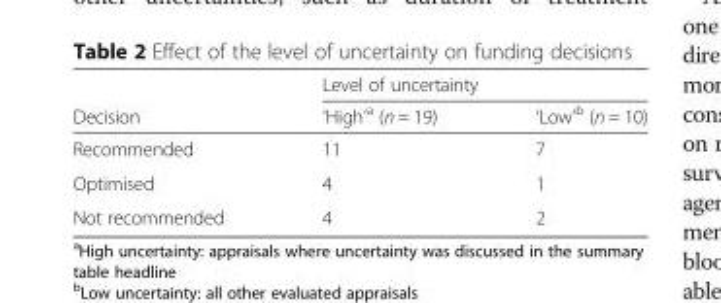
<table><thead><tr><td rowspan="2">Decision</td><td colspan="2">Level of uncertainty</td></tr><tr><td>‘High’<sup>a</sup> (n = 19)</td><td>‘Low’<sup>b</sup> (n = 10)</td></tr></thead><tbody><tr><td>Recommended</td><td>11</td><td>7</td></tr><tr><td>Optimised</td><td>4</td><td>1</td></tr><tr><td>Not recommended</td><td>4</td><td>2</td></tr></tbody></table>